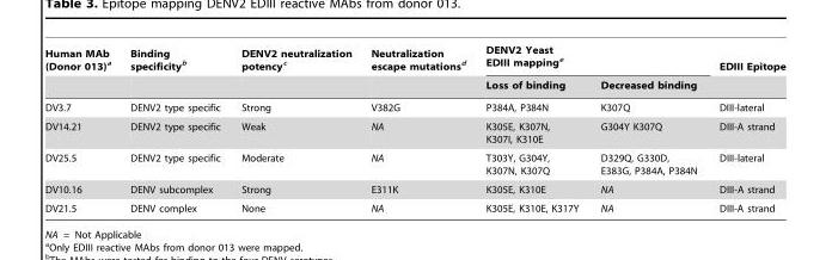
<table><thead><tr><td rowspan="2">Human MAb (Donor 013)<sup>a</sup></td><td rowspan="2">Binding specificity<sup>b</sup></td><td rowspan="2">DENV2 neutralization potency<sup>c</sup></td><td rowspan="2">Neutralization escape mutations<sup>d</sup></td><td colspan="2">DENV2 Yeast EDIII mapping<sup>e</sup></td><td rowspan="2">EDIII Epitope</td></tr><tr><td>Loss of binding</td><td>Decreased binding</td></tr></thead><tbody><tr><td>DV3.7</td><td>DENV2 type specific</td><td>Strong</td><td>V382G</td><td>P384A, P384N</td><td>K307Q</td><td>DIII-lateral</td></tr><tr><td>DV14.21</td><td>DENV2 type specific</td><td>Weak</td><td>NA</td><td>K305E, K307N, K307I, K310E</td><td>G304Y K307Q</td><td>DIII-A strand</td></tr><tr><td>DV25.5</td><td>DENV2 type specific</td><td>Moderate</td><td>NA</td><td>T303Y, G304Y, K307N, K307Q</td><td>D329Q, G330D, E383G, P384A, P384N</td><td>DIII-lateral</td></tr><tr><td>DV10.16</td><td>DENV subcomplex</td><td>Strong</td><td>E311K</td><td>K305E, K310E</td><td>NA</td><td>DIII-A strand</td></tr><tr><td>DV21.5</td><td>DENV complex</td><td>None</td><td>NA</td><td>K305E, K310E, K317Y</td><td>NA</td><td>DIII-A strand</td></tr></tbody></table>